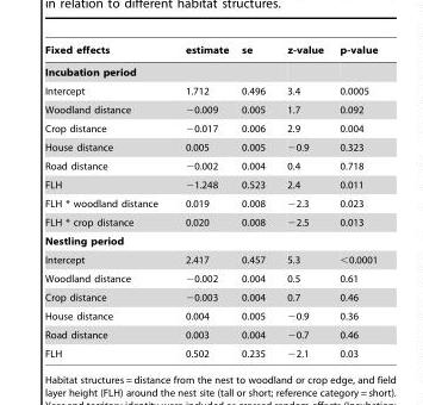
<table><thead><tr><td>Fixed effects</td><td>estimate</td><td>se</td><td>z-value</td><td>p-value</td></tr></thead><tbody><tr><td colspan="5">Incubation period</td></tr><tr><td>Intercept</td><td>1.712</td><td>0.496</td><td>3.4</td><td>0.0005</td></tr><tr><td>Woodland distance</td><td>−0.009</td><td>0.005</td><td>1.7</td><td>0.092</td></tr><tr><td>Crop distance</td><td>−0.017</td><td>0.006</td><td>2.9</td><td>0.004</td></tr><tr><td>House distance</td><td>0.005</td><td>0.005</td><td>−0.9</td><td>0.323</td></tr><tr><td>Road distance</td><td>−0.002</td><td>0.004</td><td>0.4</td><td>0.718</td></tr><tr><td>FLH</td><td>−1.248</td><td>0.523</td><td>2.4</td><td>0.011</td></tr><tr><td>FLH * woodland distance</td><td>0.019</td><td>0.008</td><td>−2.3</td><td>0.023</td></tr><tr><td>FLH * crop distance</td><td>0.020</td><td>0.008</td><td>−2.5</td><td>0.013</td></tr><tr><td colspan="5">Nestling period</td></tr><tr><td>Intercept</td><td>2.417</td><td>0.457</td><td>5.3</td><td>&lt;0.0001</td></tr><tr><td>Woodland distance</td><td>−0.002</td><td>0.004</td><td>0.5</td><td>0.61</td></tr><tr><td>Crop distance</td><td>−0.003</td><td>0.004</td><td>0.7</td><td>0.46</td></tr><tr><td>House distance</td><td>0.004</td><td>0.005</td><td>−0.9</td><td>0.36</td></tr><tr><td>Road distance</td><td>0.003</td><td>0.004</td><td>−0.7</td><td>0.46</td></tr><tr><td>FLH</td><td>0.502</td><td>0.235</td><td>−2.1</td><td>0.03</td></tr></tbody></table>